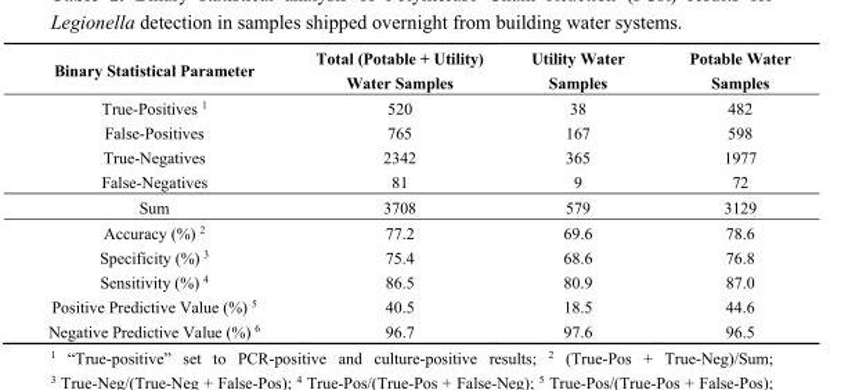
<table><thead><tr><td>Binary Statistical Parameter</td><td>Total (Potable + Utility) Water Samples</td><td>Utility Water Samples</td><td>Potable Water Samples</td></tr></thead><tbody><tr><td>True-Positives <sup>1</sup></td><td>520</td><td>38</td><td>482</td></tr><tr><td>False-Positives</td><td>765</td><td>167</td><td>598</td></tr><tr><td>True-Negatives</td><td>2342</td><td>365</td><td>1977</td></tr><tr><td>False-Negatives</td><td>81</td><td>9</td><td>72</td></tr><tr><td>Sum</td><td>3708</td><td>579</td><td>3129</td></tr><tr><td>Accuracy (%) <sup>2</sup></td><td>77.2</td><td>69.6</td><td>78.6</td></tr><tr><td>Specificity (%) <sup>3</sup></td><td>75.4</td><td>68.6</td><td>76.8</td></tr><tr><td>Sensitivity (%) <sup>4</sup></td><td>86.5</td><td>80.9</td><td>87.0</td></tr><tr><td>Positive Predictive Value (%) <sup>5</sup></td><td>40.5</td><td>18.5</td><td>44.6</td></tr><tr><td>Negative Predictive Value (%) <sup>6</sup></td><td>96.7</td><td>97.6</td><td>96.5</td></tr></tbody></table>